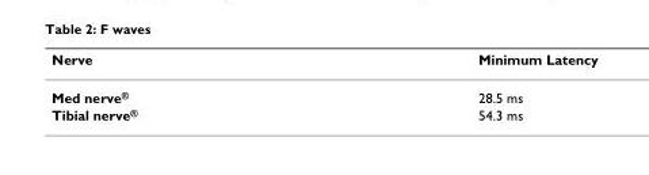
<table><thead><tr><td>Nerve</td><td>Minimum Latency</td></tr></thead><tbody><tr><td>Med nerve<sup>®</sup></td><td>28.5 ms</td></tr><tr><td>Tibial nerve<sup>®</sup></td><td>54.3 ms</td></tr></tbody></table>